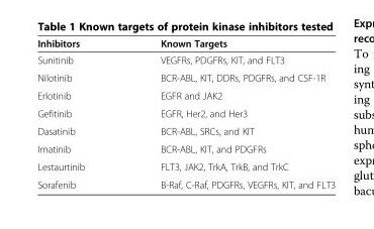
<table><thead><tr><td>Inhibitors</td><td>Known Targets</td></tr></thead><tbody><tr><td>Sunitinib</td><td>VEGFRs, PDGFRs, KIT, and FLT3</td></tr><tr><td>Nilotinib</td><td>BCR-ABL, KIT, DDRs, PDGFRs, and CSF-1R</td></tr><tr><td>Erlotinib</td><td>EGFR and JAK2</td></tr><tr><td>Gefitinib</td><td>EGFR, Her2, and Her3</td></tr><tr><td>Dasatinib</td><td>BCR-ABL, SRCs, and KIT</td></tr><tr><td>Imatinib</td><td>BCR-ABL, KIT, and PDGFRs</td></tr><tr><td>Lestaurtinib</td><td>FLT3, JAK2, TrkA, TrkB, and TrkC</td></tr><tr><td>Sorafenib</td><td>B-Raf, C-Raf, PDGFRs, VEGFRs, KIT, and FLT3</td></tr></tbody></table>